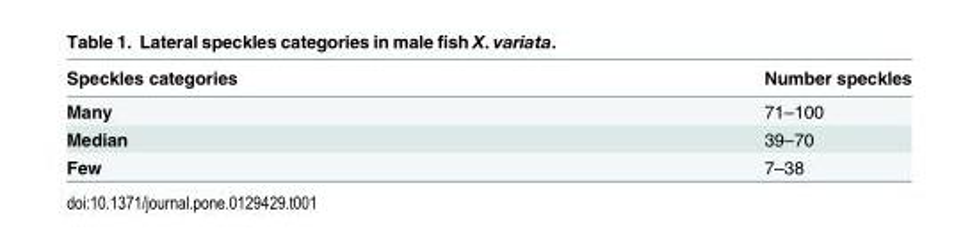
<table><thead><tr><td>Speckles categories</td><td>Number speckles</td></tr></thead><tbody><tr><td>Many</td><td>71–100</td></tr><tr><td>Median</td><td>39–70</td></tr><tr><td>Few</td><td>7–38</td></tr></tbody></table>